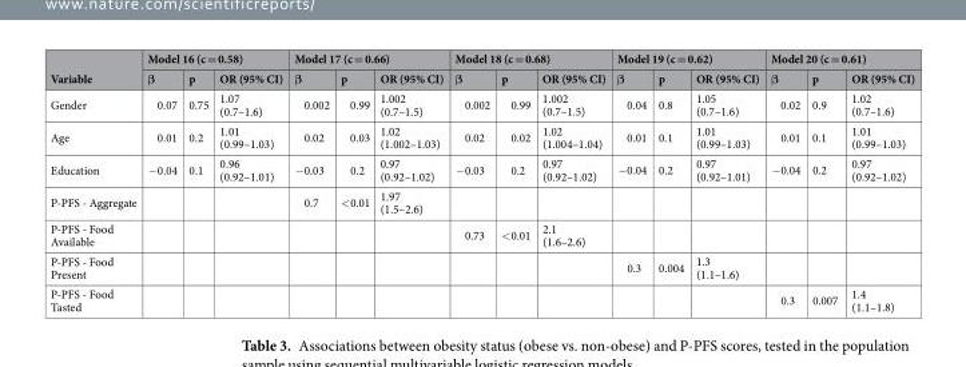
<table><thead><tr><td rowspan="2">Variable</td><td colspan="3">Model 16 (c = 0.58)</td><td colspan="3">Model 17 (c = 0.66)</td><td colspan="3">Model 18 (c = 0.68)</td><td colspan="3">Model 19 (c = 0.62)</td><td colspan="3">Model 20 (c = 0.61)</td></tr><tr><td>β</td><td>p</td><td>OR (95% CI)</td><td>β</td><td>p</td><td>OR (95% CI)</td><td>β</td><td>p</td><td>OR (95% CI)</td><td>β</td><td>p</td><td>OR (95% CI)</td><td>β</td><td>p</td><td>OR (95% CI)</td></tr></thead><tbody><tr><td>Gender</td><td>0.07</td><td>0.75</td><td>1.07 (0.7–1.6)</td><td>0.002</td><td>0.99</td><td>1.002 (0.7–1.5)</td><td>0.002</td><td>0.99</td><td>1.002 (0.7–1.5)</td><td>0.04</td><td>0.8</td><td>1.05 (0.7–1.6)</td><td>0.02</td><td>0.9</td><td>1.02 (0.7–1.6)</td></tr><tr><td>Age</td><td>0.01</td><td>0.2</td><td>1.01 (0.99–1.03)</td><td>0.02</td><td>0.03</td><td>1.02 (1.002–1.03)</td><td>0.02</td><td>0.02</td><td>1.02 (1.004–1.04)</td><td>0.01</td><td>0.1</td><td>1.01 (0.99–1.03)</td><td>0.01</td><td>0.1</td><td>1.01 (0.99–1.03)</td></tr><tr><td>Education</td><td>−0.04</td><td>0.1</td><td>0.96 (0.92–1.01)</td><td>−0.03</td><td>0.2</td><td>0.97 (0.92–1.02)</td><td>−0.03</td><td>0.2</td><td>0.97 (0.92–1.02)</td><td>−0.04</td><td>0.2</td><td>0.97 (0.92–1.01)</td><td>−0.04</td><td>0.2</td><td>0.97 (0.92–1.02)</td></tr><tr><td>P-PFS - Aggregate</td><td></td><td></td><td></td><td>0.7</td><td>&lt;0.01</td><td>1.97 (1.5–2.6)</td><td></td><td></td><td></td><td></td><td></td><td></td><td></td><td></td><td></td></tr><tr><td>P-PFS - Food Available</td><td></td><td></td><td></td><td></td><td></td><td></td><td>0.73</td><td>&lt;0.01</td><td>2.1 (1.6–2.6)</td><td></td><td></td><td></td><td></td><td></td><td></td></tr><tr><td>P-PFS - Food Present</td><td></td><td></td><td></td><td></td><td></td><td></td><td></td><td></td><td></td><td>0.3</td><td>0.004</td><td>1.3 (1.1–1.6)</td><td></td><td></td><td></td></tr><tr><td>P-PFS - Food Tasted</td><td></td><td></td><td></td><td></td><td></td><td></td><td></td><td></td><td></td><td></td><td></td><td></td><td>0.3</td><td>0.007</td><td>1.4 (1.1–1.8)</td></tr></tbody></table>